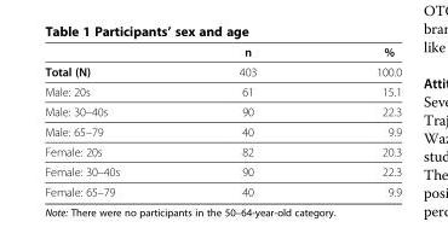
<table><thead><tr><td></td><td>n</td><td>%</td></tr></thead><tbody><tr><td>Total (N)</td><td>403</td><td>100.0</td></tr><tr><td>Male: 20s</td><td>61</td><td>15.1</td></tr><tr><td>Male: 30–40s</td><td>90</td><td>22.3</td></tr><tr><td>Male: 65–79</td><td>40</td><td>9.9</td></tr><tr><td>Female: 20s</td><td>82</td><td>20.3</td></tr><tr><td>Female: 30–40s</td><td>90</td><td>22.3</td></tr><tr><td>Female: 65–79</td><td>40</td><td>9.9</td></tr></tbody></table>